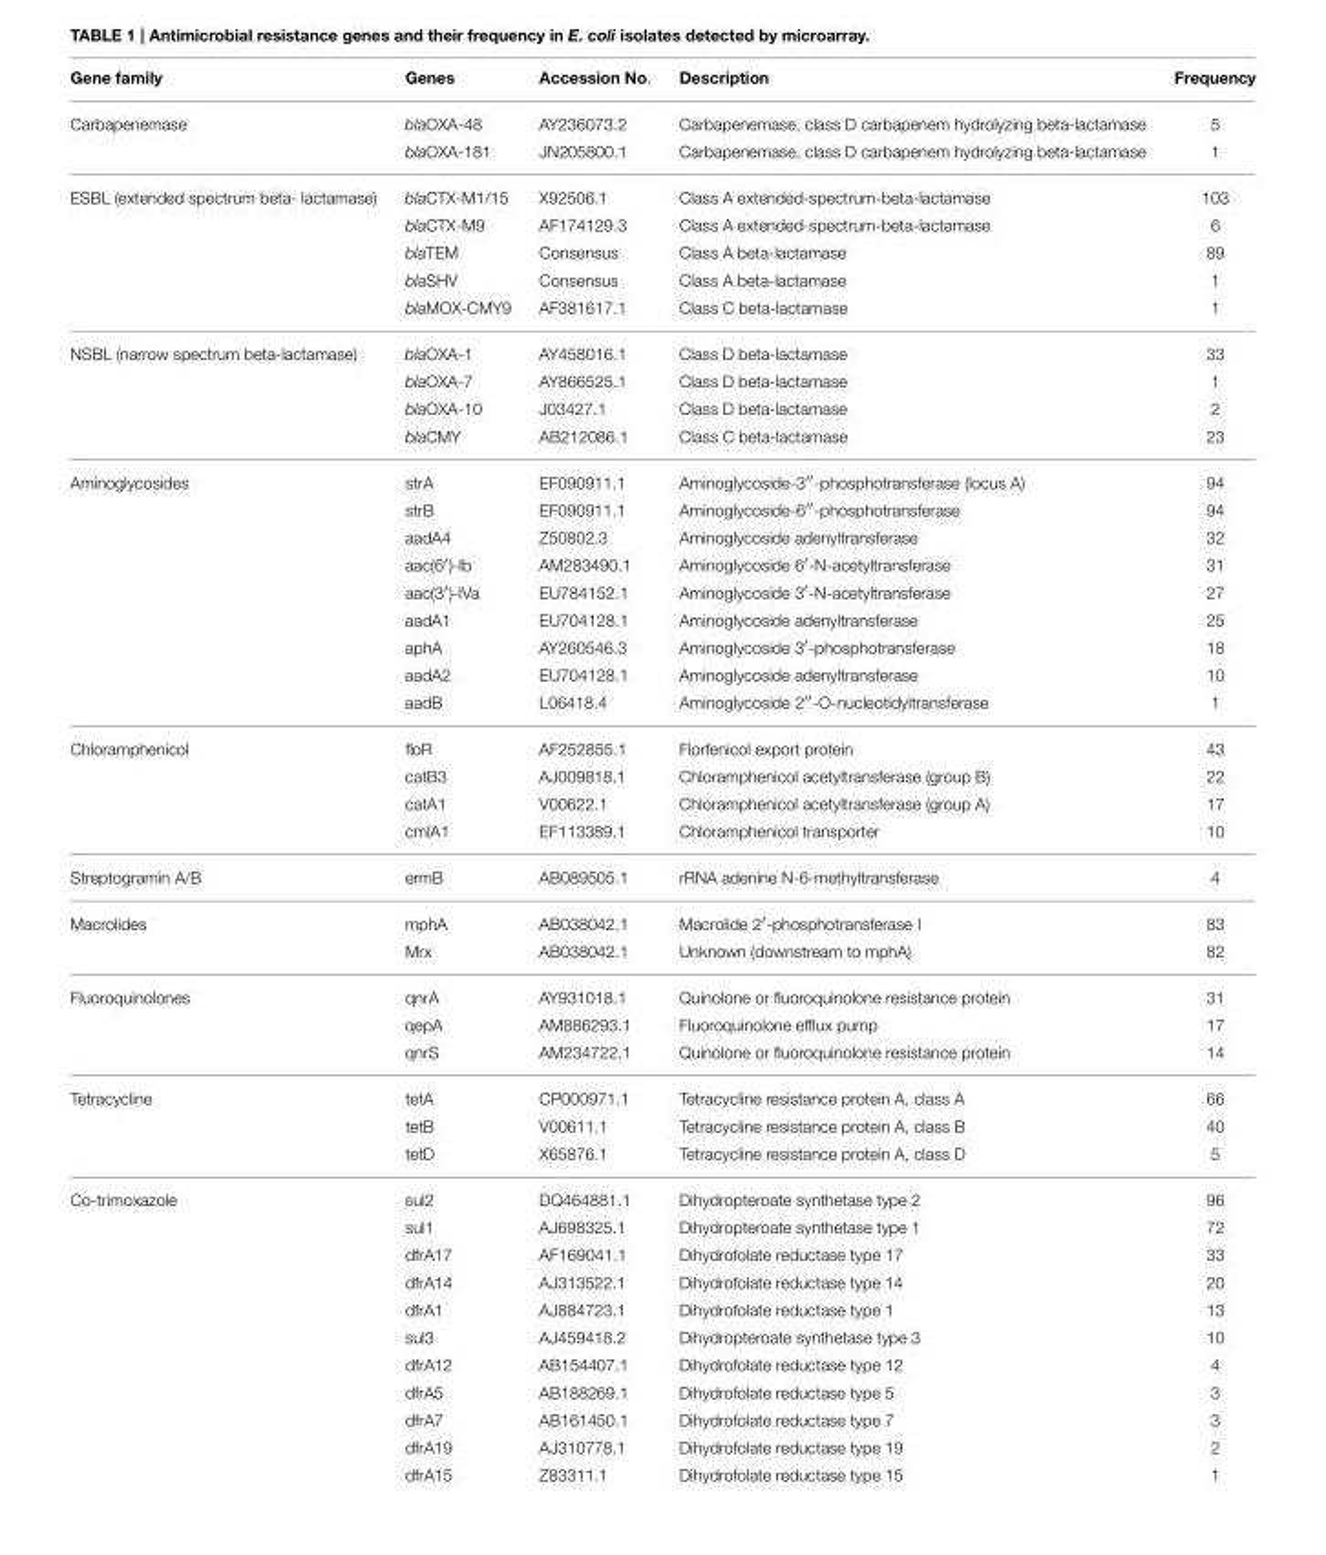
<table><thead><tr><td>Gene family</td><td>Genes</td><td>Accession No.</td><td>Description</td><td>Frequency</td></tr></thead><tbody><tr><td rowspan="2">Carbapenemase</td><td>blaOXA-48</td><td>AY236073.2</td><td>Carbapenemase, class D carbapenem hydrolyzing beta-lactamase</td><td>5</td></tr><tr><td>blaOXA-181</td><td>JN205800.1</td><td>Carbapenemase, class D carbapenem hydrolyzing beta-lactamase</td><td>1</td></tr><tr><td rowspan="5">ESBL (extended spectrum beta- lactamase)</td><td>blaCTX-M1/15</td><td>X92506.1</td><td>Class A extended-spectrum-beta-lactamase</td><td>103</td></tr><tr><td>blaCTX-M9</td><td>AF174129.3</td><td>Class A extended-spectrum-beta-lactamase</td><td>6</td></tr><tr><td>blaTEM</td><td>Consensus</td><td>Class A beta-lactamase</td><td>89</td></tr><tr><td>blaSHV</td><td>Consensus</td><td>Class A beta-lactamase</td><td>1</td></tr><tr><td>blaMOX-CMY9</td><td>AF381617.1</td><td>Class C beta-lactamase</td><td>1</td></tr><tr><td rowspan="4">NSBL (narrow spectrum beta-lactamase)</td><td>blaOXA-1</td><td>AY458016.1</td><td>Class D beta-lactamase</td><td>33</td></tr><tr><td>blaOXA-7</td><td>AY866525.1</td><td>Class D beta-lactamase</td><td>1</td></tr><tr><td>blaOXA-10</td><td>J03427.1</td><td>Class D beta-lactamase</td><td>2</td></tr><tr><td>blaCMY</td><td>AB212086.1</td><td>Class C beta-lactamase</td><td>23</td></tr><tr><td rowspan="9">Aminoglycosides</td><td>strA</td><td>EF090911.1</td><td>Aminoglycoside-3′′-phosphotransferase (locus A)</td><td>94</td></tr><tr><td>strB</td><td>EF090911.1</td><td>Aminoglycoside-6′′-phosphotransferase</td><td>94</td></tr><tr><td>aadA4</td><td>Z50802.3</td><td>Aminoglycoside adenyltransferase</td><td>32</td></tr><tr><td>aac(6′)-Ib</td><td>AM283490.1</td><td>Aminoglycoside 6′-N-acetyltransferase</td><td>31</td></tr><tr><td>aac(3′)-IVa</td><td>EU784152.1</td><td>Aminoglycoside 3′-N-acetyltransferase</td><td>27</td></tr><tr><td>aadA1</td><td>EU704128.1</td><td>Aminoglycoside adenyltransferase</td><td>25</td></tr><tr><td>aphA</td><td>AY260546.3</td><td>Aminoglycoside 3′-phosphotransferase</td><td>18</td></tr><tr><td>aadA2</td><td>EU704128.1</td><td>Aminoglycoside adenyltransferase</td><td>10</td></tr><tr><td>aadB</td><td>L06418.4</td><td>Aminoglycoside 2′′-O-nucleotidyltransferase</td><td>1</td></tr><tr><td rowspan="4">Chloramphenicol</td><td>floR</td><td>AF252855.1</td><td>Florfenicol export protein</td><td>43</td></tr><tr><td>catB3</td><td>AJ009818.1</td><td>Chloramphenicol acetyltransferase (group B)</td><td>22</td></tr><tr><td>catA1</td><td>V00622.1</td><td>Chloramphenicol acetyltransferase (group A)</td><td>17</td></tr><tr><td>cmlA1</td><td>EF113389.1</td><td>Chloramphenicol transporter</td><td>10</td></tr><tr><td>Streptogramin A/B</td><td>ermB</td><td>AB089505.1</td><td>rRNA adenine N-6-methyltransferase</td><td>4</td></tr><tr><td rowspan="2">Macrolides</td><td>mphA</td><td>AB038042.1</td><td>Macrolide 2′-phosphotransferase I</td><td>83</td></tr><tr><td>Mrx</td><td>AB038042.1</td><td>Unknown (downstream to mphA)</td><td>82</td></tr><tr><td rowspan="3">Fluoroquinolones</td><td>qnrA</td><td>AY931018.1</td><td>Quinolone or fluoroquinolone resistance protein</td><td>31</td></tr><tr><td>qepA</td><td>AM886293.1</td><td>Fluoroquinolone efflux pump</td><td>17</td></tr><tr><td>qnrS</td><td>AM234722.1</td><td>Quinolone or fluoroquinolone resistance protein</td><td>14</td></tr><tr><td rowspan="3">Tetracycline</td><td>tetA</td><td>CP000971.1</td><td>Tetracycline resistance protein A, class A</td><td>66</td></tr><tr><td>tetB</td><td>V00611.1</td><td>Tetracycline resistance protein A, class B</td><td>40</td></tr><tr><td>tetD</td><td>X65876.1</td><td>Tetracycline resistance protein A, class D</td><td>5</td></tr><tr><td rowspan="11">Co-trimoxazole</td><td>sul2</td><td>DQ464881.1</td><td>Dihydropteroate synthetase type 2</td><td>96</td></tr><tr><td>sul1</td><td>AJ698325.1</td><td>Dihydropteroate synthetase type 1</td><td>72</td></tr><tr><td>dfrA17</td><td>AF169041.1</td><td>Dihydrofolate reductase type 17</td><td>33</td></tr><tr><td>dfrA14</td><td>AJ313522.1</td><td>Dihydrofolate reductase type 14</td><td>20</td></tr><tr><td>dfrA1</td><td>AJ884723.1</td><td>Dihydrofolate reductase type 1</td><td>13</td></tr><tr><td>sul3</td><td>AJ459418.2</td><td>Dihydropteroate synthetase type 3</td><td>10</td></tr><tr><td>dfrA12</td><td>AB154407.1</td><td>Dihydrofolate reductase type 12</td><td>4</td></tr><tr><td>dfrA5</td><td>AB188269.1</td><td>Dihydrofolate reductase type 5</td><td>3</td></tr><tr><td>dfrA7</td><td>AB161450.1</td><td>Dihydrofolate reductase type 7</td><td>3</td></tr><tr><td>dfrA19</td><td>AJ310778.1</td><td>Dihydrofolate reductase type 19</td><td>2</td></tr><tr><td>dfrA15</td><td>Z83311.1</td><td>Dihydrofolate reductase type 15</td><td>1</td></tr></tbody></table>